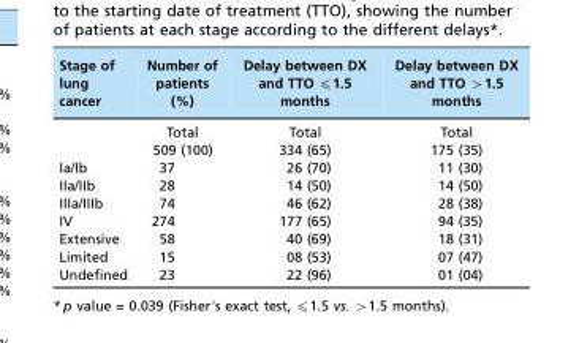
<table><thead><tr><td>Stage of lung cancer</td><td>Number of patients (%)</td><td>Delay between DX and TTO ≤1.5 months</td><td>Delay between DX and TTO &gt;1.5 months</td></tr></thead><tbody><tr><td></td><td>Total</td><td>Total</td><td>Total</td></tr><tr><td></td><td>509 (100)</td><td>334 (65)</td><td>175 (35)</td></tr><tr><td>Ia/Ib</td><td>37</td><td>26 (70)</td><td>11 (30)</td></tr><tr><td>IIa/IIb</td><td>28</td><td>14 (50)</td><td>14 (50)</td></tr><tr><td>IIIa/IIIb</td><td>74</td><td>46 (62)</td><td>28 (38)</td></tr><tr><td>IV</td><td>274</td><td>177 (65)</td><td>94 (35)</td></tr><tr><td>Extensive</td><td>58</td><td>40 (69)</td><td>18 (31)</td></tr><tr><td>Limited</td><td>15</td><td>08 (53)</td><td>07 (47)</td></tr><tr><td>Undefined</td><td>23</td><td>22 (96)</td><td>01 (04)</td></tr></tbody></table>